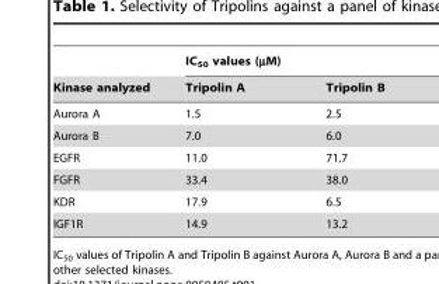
<table><thead><tr><td rowspan="2">Kinase analyzed</td><td colspan="2">IC<sub>50</sub> values (µM)</td></tr><tr><td>Tripolin A</td><td>Tripolin B</td></tr></thead><tbody><tr><td>Aurora A</td><td>1.5</td><td>2.5</td></tr><tr><td>Aurora B</td><td>7.0</td><td>6.0</td></tr><tr><td>EGFR</td><td>11.0</td><td>71.7</td></tr><tr><td>FGFR</td><td>33.4</td><td>38.0</td></tr><tr><td>KDR</td><td>17.9</td><td>6.5</td></tr><tr><td>IGF1R</td><td>14.9</td><td>13.2</td></tr></tbody></table>